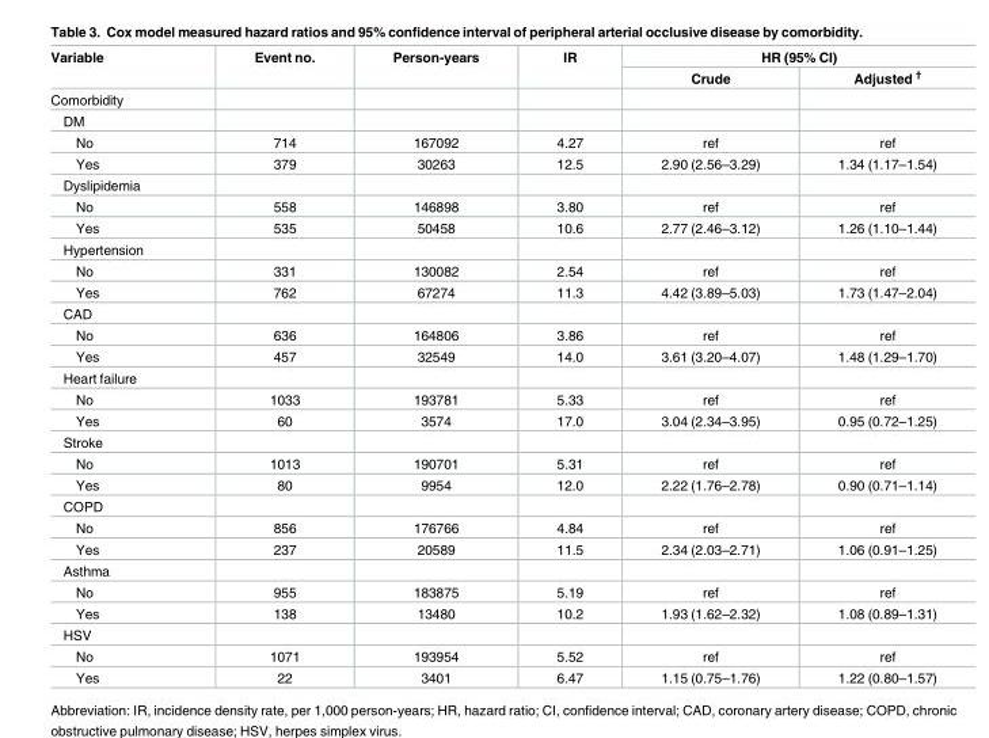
<table><thead><tr><td rowspan="2">Variable</td><td rowspan="2">Event no.</td><td rowspan="2">Person-years</td><td rowspan="2">IR</td><td colspan="2">HR (95% CI)</td></tr><tr><td>Crude</td><td>Adjusted <sup>†</sup></td></tr></thead><tbody><tr><td colspan="6">Comorbidity</td></tr><tr><td colspan="6">DM</td></tr><tr><td>No</td><td>714</td><td>167092</td><td>4.27</td><td>ref</td><td>ref</td></tr><tr><td>Yes</td><td>379</td><td>30263</td><td>12.5</td><td>2.90 (2.56–3.29)</td><td>1.34 (1.17–1.54)</td></tr><tr><td colspan="6">Dyslipidemia</td></tr><tr><td>No</td><td>558</td><td>146898</td><td>3.80</td><td>ref</td><td>ref</td></tr><tr><td>Yes</td><td>535</td><td>50458</td><td>10.6</td><td>2.77 (2.46–3.12)</td><td>1.26 (1.10–1.44)</td></tr><tr><td colspan="6">Hypertension</td></tr><tr><td>No</td><td>331</td><td>130082</td><td>2.54</td><td>ref</td><td>ref</td></tr><tr><td>Yes</td><td>762</td><td>67274</td><td>11.3</td><td>4.42 (3.89–5.03)</td><td>1.73 (1.47–2.04)</td></tr><tr><td colspan="6">CAD</td></tr><tr><td>No</td><td>636</td><td>164806</td><td>3.86</td><td>ref</td><td>ref</td></tr><tr><td>Yes</td><td>457</td><td>32549</td><td>14.0</td><td>3.61 (3.20–4.07)</td><td>1.48 (1.29–1.70)</td></tr><tr><td colspan="6">Heart failure</td></tr><tr><td>No</td><td>1033</td><td>193781</td><td>5.33</td><td>ref</td><td>ref</td></tr><tr><td>Yes</td><td>60</td><td>3574</td><td>17.0</td><td>3.04 (2.34–3.95)</td><td>0.95 (0.72–1.25)</td></tr><tr><td colspan="6">Stroke</td></tr><tr><td>No</td><td>1013</td><td>190701</td><td>5.31</td><td>ref</td><td>ref</td></tr><tr><td>Yes</td><td>80</td><td>9954</td><td>12.0</td><td>2.22 (1.76–2.78)</td><td>0.90 (0.71–1.14)</td></tr><tr><td colspan="6">COPD</td></tr><tr><td>No</td><td>856</td><td>176766</td><td>4.84</td><td>ref</td><td>ref</td></tr><tr><td>Yes</td><td>237</td><td>20589</td><td>11.5</td><td>2.34 (2.03–2.71)</td><td>1.06 (0.91–1.25)</td></tr><tr><td colspan="6">Asthma</td></tr><tr><td>No</td><td>955</td><td>183875</td><td>5.19</td><td>ref</td><td>ref</td></tr><tr><td>Yes</td><td>138</td><td>13480</td><td>10.2</td><td>1.93 (1.62–2.32)</td><td>1.08 (0.89–1.31)</td></tr><tr><td colspan="6">HSV</td></tr><tr><td>No</td><td>1071</td><td>193954</td><td>5.52</td><td>ref</td><td>ref</td></tr><tr><td>Yes</td><td>22</td><td>3401</td><td>6.47</td><td>1.15 (0.75–1.76)</td><td>1.22 (0.80–1.57)</td></tr></tbody></table>